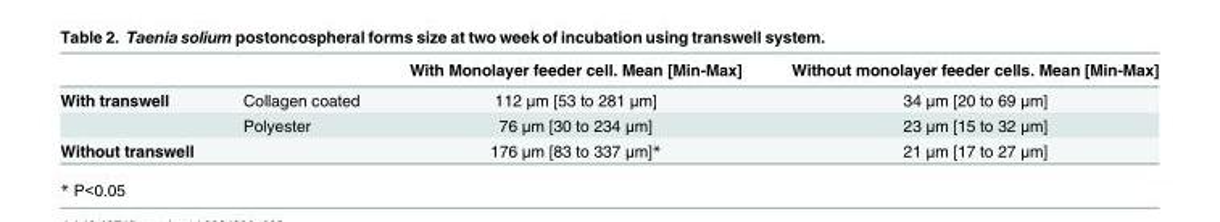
<table><thead><tr><td></td><td></td><td>With Monolayer feeder cell. Mean [Min-Max]</td><td>Without monolayer feeder cells. Mean [Min-Max]</td></tr></thead><tbody><tr><td rowspan="2">With transwell</td><td>Collagen coated</td><td>112 μm [53 to 281 μm]</td><td>34 μm [20 to 69 μm]</td></tr><tr><td>Polyester</td><td>76 μm [30 to 234 μm]</td><td>23 μm [15 to 32 μm]</td></tr><tr><td>Without transwell</td><td></td><td>176 μm [83 to 337 μm]*</td><td>21 μm [17 to 27 μm]</td></tr></tbody></table>